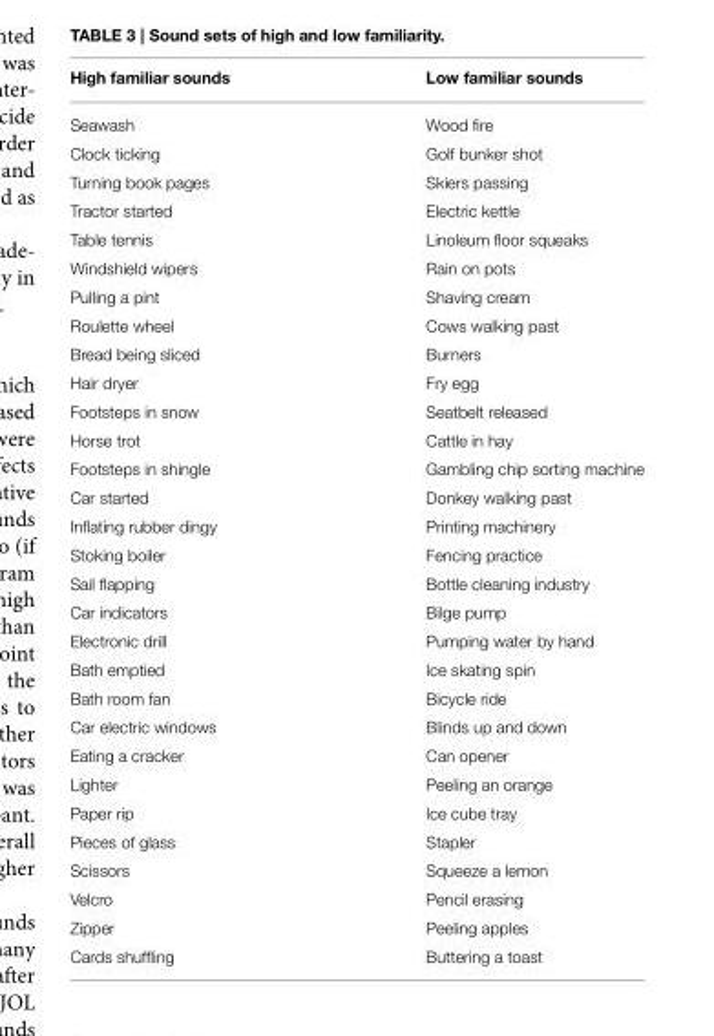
<table><thead><tr><td>High familiar sounds</td><td>Low familiar sounds</td></tr></thead><tbody><tr><td>Seawash</td><td>Wood fire</td></tr><tr><td>Clock ticking</td><td>Golf bunker shot</td></tr><tr><td>Turning book pages</td><td>Skiers passing</td></tr><tr><td>Tractor started</td><td>Electric kettle</td></tr><tr><td>Table tennis</td><td>Linoleum floor squeaks</td></tr><tr><td>Windshield wipers</td><td>Rain on pots</td></tr><tr><td>Pulling a pint</td><td>Shaving cream</td></tr><tr><td>Roulette wheel</td><td>Cows walking past</td></tr><tr><td>Bread being sliced</td><td>Burners</td></tr><tr><td>Hair dryer</td><td>Fry egg</td></tr><tr><td>Footsteps in snow</td><td>Seatbelt released</td></tr><tr><td>Horse trot</td><td>Cattle in hay</td></tr><tr><td>Footsteps in shingle</td><td>Gambling chip sorting machine</td></tr><tr><td>Car started</td><td>Donkey walking past</td></tr><tr><td>Inflating rubber dingy</td><td>Printing machinery</td></tr><tr><td>Stoking boiler</td><td>Fencing practice</td></tr><tr><td>Sail flapping</td><td>Bottle cleaning industry</td></tr><tr><td>Car indicators</td><td>Bilge pump</td></tr><tr><td>Electronic drill</td><td>Pumping water by hand</td></tr><tr><td>Bath emptied</td><td>Ice skating spin</td></tr><tr><td>Bath room fan</td><td>Bicycle ride</td></tr><tr><td>Car electric windows</td><td>Blinds up and down</td></tr><tr><td>Eating a cracker</td><td>Can opener</td></tr><tr><td>Lighter</td><td>Peeling an orange</td></tr><tr><td>Paper rip</td><td>Ice cube tray</td></tr><tr><td>Pieces of glass</td><td>Stapler</td></tr><tr><td>Scissors</td><td>Squeeze a lemon</td></tr><tr><td>Velcro</td><td>Pencil erasing</td></tr><tr><td>Zipper</td><td>Peeling apples</td></tr><tr><td>Cards shuffling</td><td>Buttering a toast</td></tr></tbody></table>